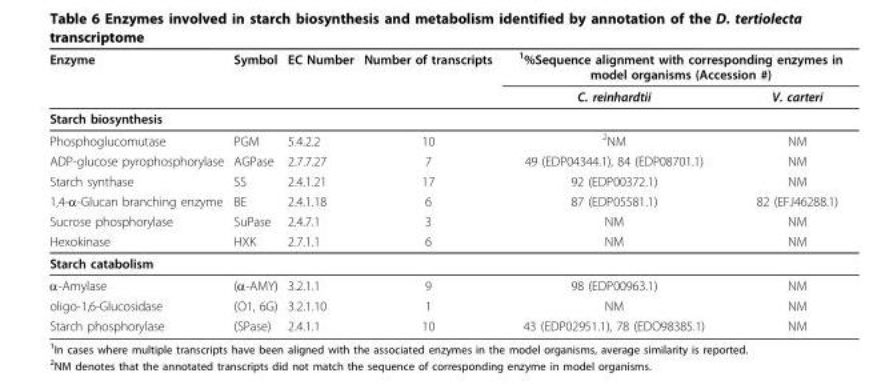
<table><thead><tr><td rowspan="2">Enzyme</td><td rowspan="2">Symbol</td><td rowspan="2">EC Number</td><td rowspan="2">Number of transcripts</td><td colspan="2"><sup>1</sup>%Sequence alignment with corresponding enzymes in model organisms (Accession #)</td></tr><tr><td>C. reinhardtii</td><td>V. carteri</td></tr></thead><tbody><tr><td colspan="6">Starch biosynthesis</td></tr><tr><td>Phosphoglucomutase</td><td>PGM</td><td>5.4.2.2</td><td>10</td><td><sup>2</sup>NM</td><td>NM</td></tr><tr><td>ADP-glucose pyrophosphorylase</td><td>AGPase</td><td>2.7.7.27</td><td>7</td><td>49 (EDP04344.1), 84 (EDP08701.1)</td><td>NM</td></tr><tr><td>Starch synthase</td><td>SS</td><td>2.4.1.21</td><td>17</td><td>92 (EDP00372.1)</td><td>NM</td></tr><tr><td>1,4-α-Glucan branching enzyme</td><td>BE</td><td>2.4.1.18</td><td>6</td><td>87 (EDP05581.1)</td><td>82 (EFJ46288.1)</td></tr><tr><td>Sucrose phosphorylase</td><td>SuPase</td><td>2.4.7.1</td><td>3</td><td>NM</td><td>NM</td></tr><tr><td>Hexokinase</td><td>HXK</td><td>2.7.1.1</td><td>6</td><td>NM</td><td>NM</td></tr><tr><td colspan="6">Starch catabolism</td></tr><tr><td>α-Amylase</td><td>(α-AMY)</td><td>3.2.1.1</td><td>9</td><td>98 (EDP00963.1)</td><td>NM</td></tr><tr><td>oligo-1,6-Glucosidase</td><td>(O1, 6G)</td><td>3.2.1.10</td><td>1</td><td>NM</td><td>NM</td></tr><tr><td>Starch phosphorylase</td><td>(SPase)</td><td>2.4.1.1</td><td>10</td><td>43 (EDP02951.1), 78 (EDO98385.1)</td><td>NM</td></tr></tbody></table>